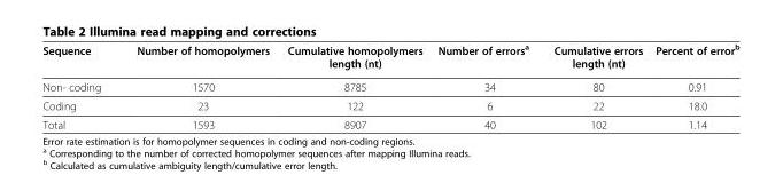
<table><thead><tr><td>Sequence</td><td>Number of homopolymers</td><td>Cumulative homopolymers length (nt)</td><td>Number of errors<sup>a</sup></td><td>Cumulative errors length (nt)</td><td>Percent of error<sup>b</sup></td></tr></thead><tbody><tr><td>Non- coding</td><td>1570</td><td>8785</td><td>34</td><td>80</td><td>0.91</td></tr><tr><td>Coding</td><td>23</td><td>122</td><td>6</td><td>22</td><td>18.0</td></tr><tr><td>Total</td><td>1593</td><td>8907</td><td>40</td><td>102</td><td>1.14</td></tr></tbody></table>